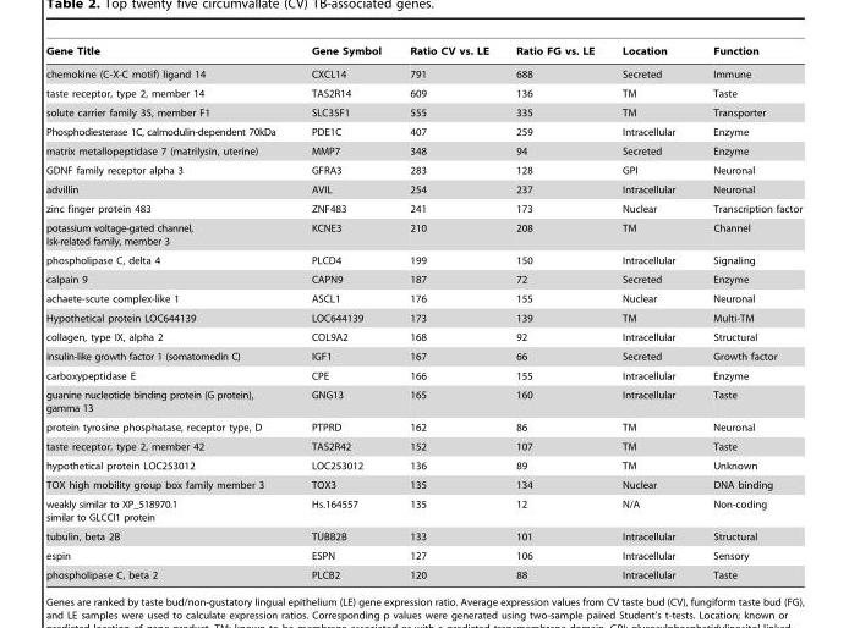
<table><thead><tr><td>Gene Title</td><td>Gene Symbol</td><td>Ratio CV vs. LE</td><td>Ratio FG vs. LE</td><td>Location</td><td>Function</td></tr></thead><tbody><tr><td>chemokine (C-X-C motif) ligand 14</td><td>CXCL14</td><td>791</td><td>688</td><td>Secreted</td><td>Immune</td></tr><tr><td>taste receptor, type 2, member 14</td><td>TAS2R14</td><td>609</td><td>136</td><td>TM</td><td>Taste</td></tr><tr><td>solute carrier family 35, member F1</td><td>SLC35F1</td><td>555</td><td>335</td><td>TM</td><td>Transporter</td></tr><tr><td>Phosphodiesterase 1C, calmodulin-dependent 70kDa</td><td>PDE1C</td><td>407</td><td>259</td><td>Intracellular</td><td>Enzyme</td></tr><tr><td>matrix metallopeptidase 7 (matrilysin, uterine)</td><td>MMP7</td><td>348</td><td>94</td><td>Secreted</td><td>Enzyme</td></tr><tr><td>GDNF family receptor alpha 3</td><td>GFRA3</td><td>283</td><td>128</td><td>GPI</td><td>Neuronal</td></tr><tr><td>advillin</td><td>AVIL</td><td>254</td><td>237</td><td>Intracellular</td><td>Neuronal</td></tr><tr><td>zinc finger protein 483</td><td>ZNF483</td><td>241</td><td>173</td><td>Nuclear</td><td>Transcription factor</td></tr><tr><td>potassium voltage-gated channel, Isk-related family, member 3</td><td>KCNE3</td><td>210</td><td>208</td><td>TM</td><td>Channel</td></tr><tr><td>phospholipase C, delta 4</td><td>PLCD4</td><td>199</td><td>150</td><td>Intracellular</td><td>Signaling</td></tr><tr><td>calpain 9</td><td>CAPN9</td><td>187</td><td>72</td><td>Secreted</td><td>Enzyme</td></tr><tr><td>achaete-scute complex-like 1</td><td>ASCL1</td><td>176</td><td>155</td><td>Nuclear</td><td>Neuronal</td></tr><tr><td>Hypothetical protein LOC644139</td><td>LOC644139</td><td>173</td><td>139</td><td>TM</td><td>Multi-TM</td></tr><tr><td>collagen, type IX, alpha 2</td><td>COL9A2</td><td>168</td><td>92</td><td>Intracellular</td><td>Structural</td></tr><tr><td>insulin-like growth factor 1 (somatomedin C)</td><td>IGF1</td><td>167</td><td>66</td><td>Secreted</td><td>Growth factor</td></tr><tr><td>carboxypeptidase E</td><td>CPE</td><td>166</td><td>155</td><td>Intracellular</td><td>Enzyme</td></tr><tr><td>guanine nucleotide binding protein (G protein), gamma 13</td><td>GNG13</td><td>165</td><td>160</td><td>Intracellular</td><td>Taste</td></tr><tr><td>protein tyrosine phosphatase, receptor type, D</td><td>PTPRD</td><td>162</td><td>86</td><td>TM</td><td>Neuronal</td></tr><tr><td>taste receptor, type 2, member 42</td><td>TAS2R42</td><td>152</td><td>107</td><td>TM</td><td>Taste</td></tr><tr><td>hypothetical protein LOC253012</td><td>LOC253012</td><td>136</td><td>89</td><td>TM</td><td>Unknown</td></tr><tr><td>TOX high mobility group box family member 3</td><td>TOX3</td><td>135</td><td>134</td><td>Nuclear</td><td>DNA binding</td></tr><tr><td>weakly similar to XP_518970.1 similar to GLCCI1 protein</td><td>Hs.164557</td><td>135</td><td>12</td><td>N/A</td><td>Non-coding</td></tr><tr><td>tubulin, beta 2B</td><td>TUBB2B</td><td>133</td><td>101</td><td>Intracellular</td><td>Structural</td></tr><tr><td>espin</td><td>ESPN</td><td>127</td><td>106</td><td>Intracellular</td><td>Sensory</td></tr><tr><td>phospholipase C, beta 2</td><td>PLCB2</td><td>120</td><td>88</td><td>Intracellular</td><td>Taste</td></tr></tbody></table>